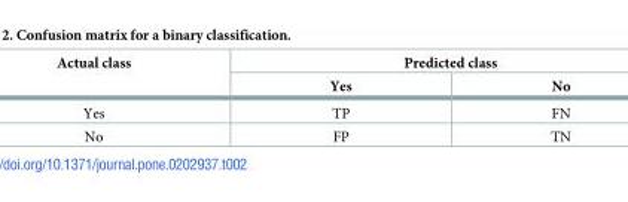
<table><thead><tr><td rowspan="2">Actual class</td><td colspan="2">Predicted class</td></tr><tr><td>Yes</td><td>No</td></tr></thead><tbody><tr><td>Yes</td><td>TP</td><td>FN</td></tr><tr><td>No</td><td>FP</td><td>TN</td></tr></tbody></table>